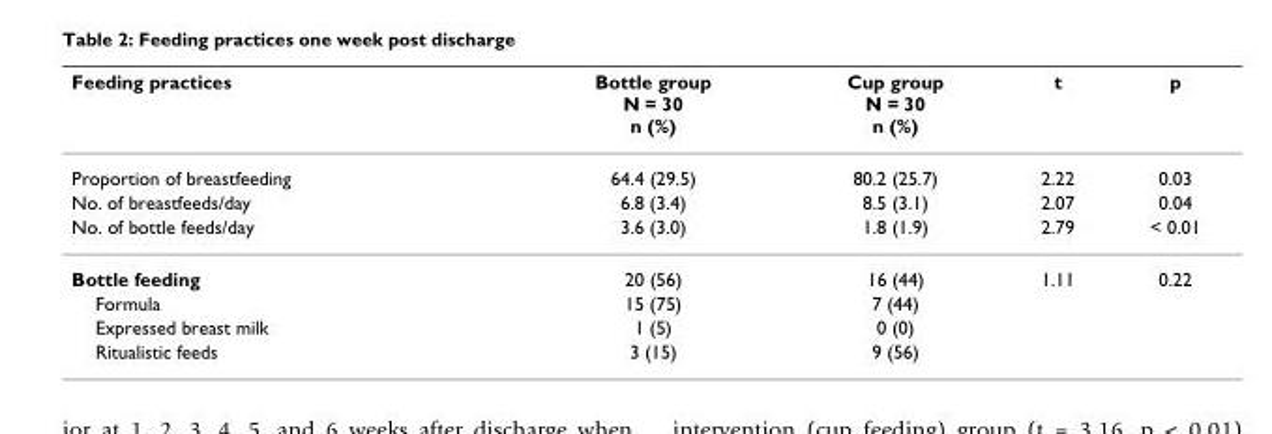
<table><thead><tr><td>Feeding practices</td><td>Bottle group N = 30 n (%)</td><td>Cup group N = 30 n (%)</td><td>t</td><td>p</td></tr></thead><tbody><tr><td>Proportion of breastfeeding</td><td>64.4 (29.5)</td><td>80.2 (25.7)</td><td>2.22</td><td>0.03</td></tr><tr><td>No. of breastfeeds/day</td><td>6.8 (3.4)</td><td>8.5 (3.1)</td><td>2.07</td><td>0.04</td></tr><tr><td>No. of bottle feeds/day</td><td>3.6 (3.0)</td><td>1.8 (1.9)</td><td>2.79</td><td>&lt; 0.01</td></tr><tr><td>Bottle feeding</td><td>20 (56)</td><td>16 (44)</td><td>1.11</td><td>0.22</td></tr><tr><td>Formula</td><td>15 (75)</td><td>7 (44)</td><td></td><td></td></tr><tr><td>Expressed breast milk</td><td>1 (5)</td><td>0 (0)</td><td></td><td></td></tr><tr><td>Ritualistic feeds</td><td>3 (15)</td><td>9 (56)</td><td></td><td></td></tr></tbody></table>